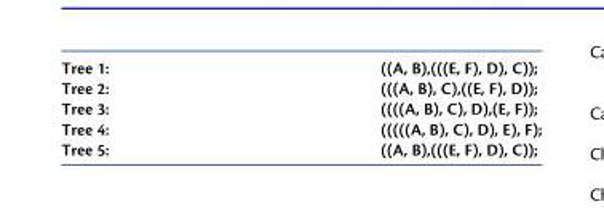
<table><tbody><tr><td>Tree 1:</td><td>((A, B),(((E, F), D), C));</td></tr><tr><td>Tree 2:</td><td>(((A, B), C),((E, F), D));</td></tr><tr><td>Tree 3:</td><td>((((A, B), C), D),(E, F));</td></tr><tr><td>Tree 4:</td><td>(((((A, B), C), D), E), F);</td></tr><tr><td>Tree 5:</td><td>((A, B),(((E, F), D), C));</td></tr></tbody></table>